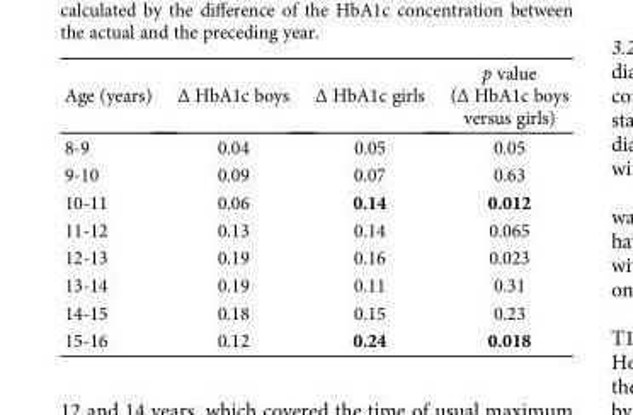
<table><thead><tr><td>Age (years)</td><td>Δ HbA1c boys</td><td>Δ HbA1c girls</td><td>p value (Δ HbA1c boys versus girls)</td></tr></thead><tbody><tr><td>8-9</td><td>0.04</td><td>0.05</td><td>0.05</td></tr><tr><td>9-10</td><td>0.09</td><td>0.07</td><td>0.63</td></tr><tr><td>10-11</td><td>0.06</td><td>0.14</td><td>0.012</td></tr><tr><td>11-12</td><td>0.13</td><td>0.14</td><td>0.065</td></tr><tr><td>12-13</td><td>0.19</td><td>0.16</td><td>0.023</td></tr><tr><td>13-14</td><td>0.19</td><td>0.11</td><td>0.31</td></tr><tr><td>14-15</td><td>0.18</td><td>0.15</td><td>0.23</td></tr><tr><td>15-16</td><td>0.12</td><td>0.24</td><td>0.018</td></tr></tbody></table>